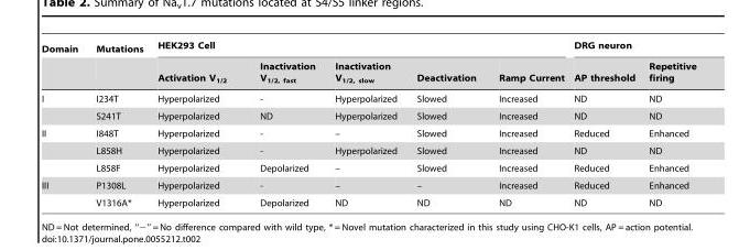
<table><thead><tr><td rowspan="2">Domain</td><td rowspan="2">Mutations</td><td colspan="5">HEK293 Cell</td><td colspan="2">DRG neuron</td></tr><tr><td>Activation V<sub>1/2</sub></td><td>Inactivation V<sub>1/2, fast</sub></td><td>Inactivation V<sub>1/2, slow</sub></td><td>Deactivation</td><td>Ramp Current</td><td>AP threshold</td><td>Repetitive firing</td></tr></thead><tbody><tr><td rowspan="2">I</td><td>I234T</td><td>Hyperpolarized</td><td>-</td><td>Hyperpolarized</td><td>Slowed</td><td>Increased</td><td>ND</td><td>ND</td></tr><tr><td>S241T</td><td>Hyperpolarized</td><td>ND</td><td>Hyperpolarized</td><td>Slowed</td><td>Increased</td><td>ND</td><td>ND</td></tr><tr><td rowspan="3">II</td><td>I848T</td><td>Hyperpolarized</td><td>-</td><td>–</td><td>Slowed</td><td>Increased</td><td>Reduced</td><td>Enhanced</td></tr><tr><td>L858H</td><td>Hyperpolarized</td><td>-</td><td>Hyperpolarized</td><td>Slowed</td><td>Increased</td><td>ND</td><td>ND</td></tr><tr><td>L858F</td><td>Hyperpolarized</td><td>Depolarized</td><td>–</td><td>Slowed</td><td>Increased</td><td>Reduced</td><td>Enhanced</td></tr><tr><td rowspan="2">III</td><td>P1308L</td><td>Hyperpolarized</td><td>-</td><td>–</td><td>–</td><td>Increased</td><td>Reduced</td><td>Enhanced</td></tr><tr><td>V1316A*</td><td>Hyperpolarized</td><td>Depolarized</td><td>ND</td><td>ND</td><td>ND</td><td>ND</td><td>ND</td></tr></tbody></table>